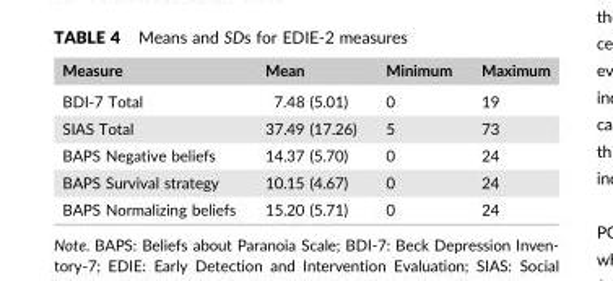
<table><thead><tr><td>Measure</td><td>Mean</td><td>Minimum</td><td>Maximum</td></tr></thead><tbody><tr><td>BDI‐7 Total</td><td>7.48 (5.01)</td><td>0</td><td>19</td></tr><tr><td>SIAS Total</td><td>37.49 (17.26)</td><td>5</td><td>73</td></tr><tr><td>BAPS Negative beliefs</td><td>14.37 (5.70)</td><td>0</td><td>24</td></tr><tr><td>BAPS Survival strategy</td><td>10.15 (4.67)</td><td>0</td><td>24</td></tr><tr><td>BAPS Normalizing beliefs</td><td>15.20 (5.71)</td><td>0</td><td>24</td></tr></tbody></table>